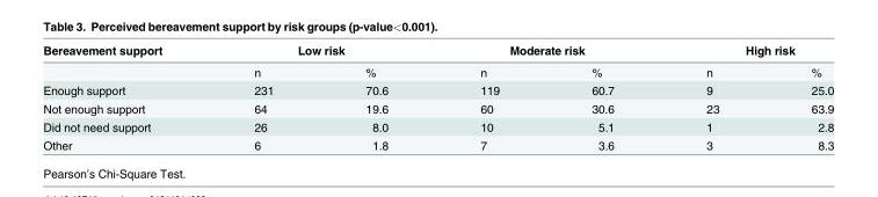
<table><thead><tr><td rowspan="2">Bereavement support</td><td colspan="2">Low risk</td><td colspan="2">Moderate risk</td><td colspan="2">High risk</td></tr><tr><td>n</td><td>%</td><td>n</td><td>%</td><td>n</td><td>%</td></tr></thead><tbody><tr><td>Enough support</td><td>231</td><td>70.6</td><td>119</td><td>60.7</td><td>9</td><td>25.0</td></tr><tr><td>Not enough support</td><td>64</td><td>19.6</td><td>60</td><td>30.6</td><td>23</td><td>63.9</td></tr><tr><td>Did not need support</td><td>26</td><td>8.0</td><td>10</td><td>5.1</td><td>1</td><td>2.8</td></tr><tr><td>Other</td><td>6</td><td>1.8</td><td>7</td><td>3.6</td><td>3</td><td>8.3</td></tr></tbody></table>